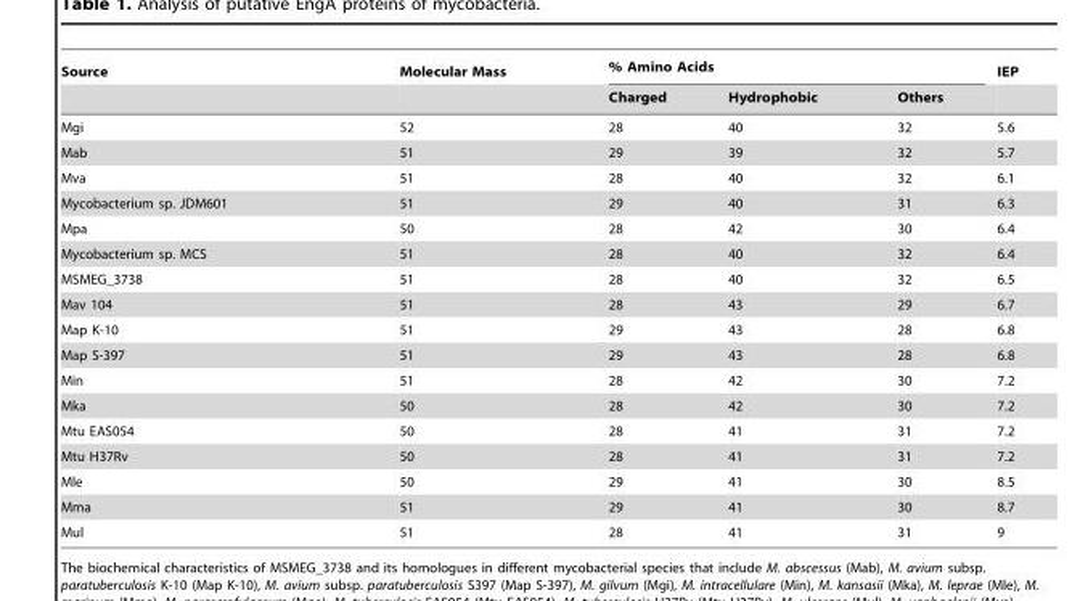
<table><thead><tr><td rowspan="2">Source</td><td rowspan="2">Molecular Mass</td><td colspan="3">% Amino Acids</td><td rowspan="2">IEP</td></tr><tr><td>Charged</td><td>Hydrophobic</td><td>Others</td></tr></thead><tbody><tr><td>Mgi</td><td>52</td><td>28</td><td>40</td><td>32</td><td>5.6</td></tr><tr><td>Mab</td><td>51</td><td>29</td><td>39</td><td>32</td><td>5.7</td></tr><tr><td>Mva</td><td>51</td><td>28</td><td>40</td><td>32</td><td>6.1</td></tr><tr><td>Mycobacterium sp. JDM601</td><td>51</td><td>29</td><td>40</td><td>31</td><td>6.3</td></tr><tr><td>Mpa</td><td>50</td><td>28</td><td>42</td><td>30</td><td>6.4</td></tr><tr><td>Mycobacterium sp. MCS</td><td>51</td><td>28</td><td>40</td><td>32</td><td>6.4</td></tr><tr><td>MSMEG_3738</td><td>51</td><td>28</td><td>40</td><td>32</td><td>6.5</td></tr><tr><td>Mav 104</td><td>51</td><td>28</td><td>43</td><td>29</td><td>6.7</td></tr><tr><td>Map K-10</td><td>51</td><td>29</td><td>43</td><td>28</td><td>6.8</td></tr><tr><td>Map S-397</td><td>51</td><td>29</td><td>43</td><td>28</td><td>6.8</td></tr><tr><td>Min</td><td>51</td><td>28</td><td>42</td><td>30</td><td>7.2</td></tr><tr><td>Mka</td><td>50</td><td>28</td><td>42</td><td>30</td><td>7.2</td></tr><tr><td>Mtu EAS054</td><td>50</td><td>28</td><td>41</td><td>31</td><td>7.2</td></tr><tr><td>Mtu H37Rv</td><td>50</td><td>28</td><td>41</td><td>31</td><td>7.2</td></tr><tr><td>Mle</td><td>50</td><td>29</td><td>41</td><td>30</td><td>8.5</td></tr><tr><td>Mma</td><td>51</td><td>29</td><td>41</td><td>30</td><td>8.7</td></tr><tr><td>Mul</td><td>51</td><td>28</td><td>41</td><td>31</td><td>9</td></tr></tbody></table>